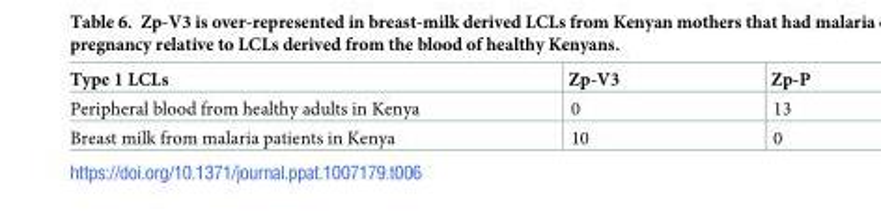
<table><thead><tr><td>Type 1 LCLs</td><td>Zp-V3</td><td>Zp-P</td></tr></thead><tbody><tr><td>Peripheral blood from healthy adults in Kenya</td><td>0</td><td>13</td></tr><tr><td>Breast milk from malaria patients in Kenya</td><td>10</td><td>0</td></tr></tbody></table>